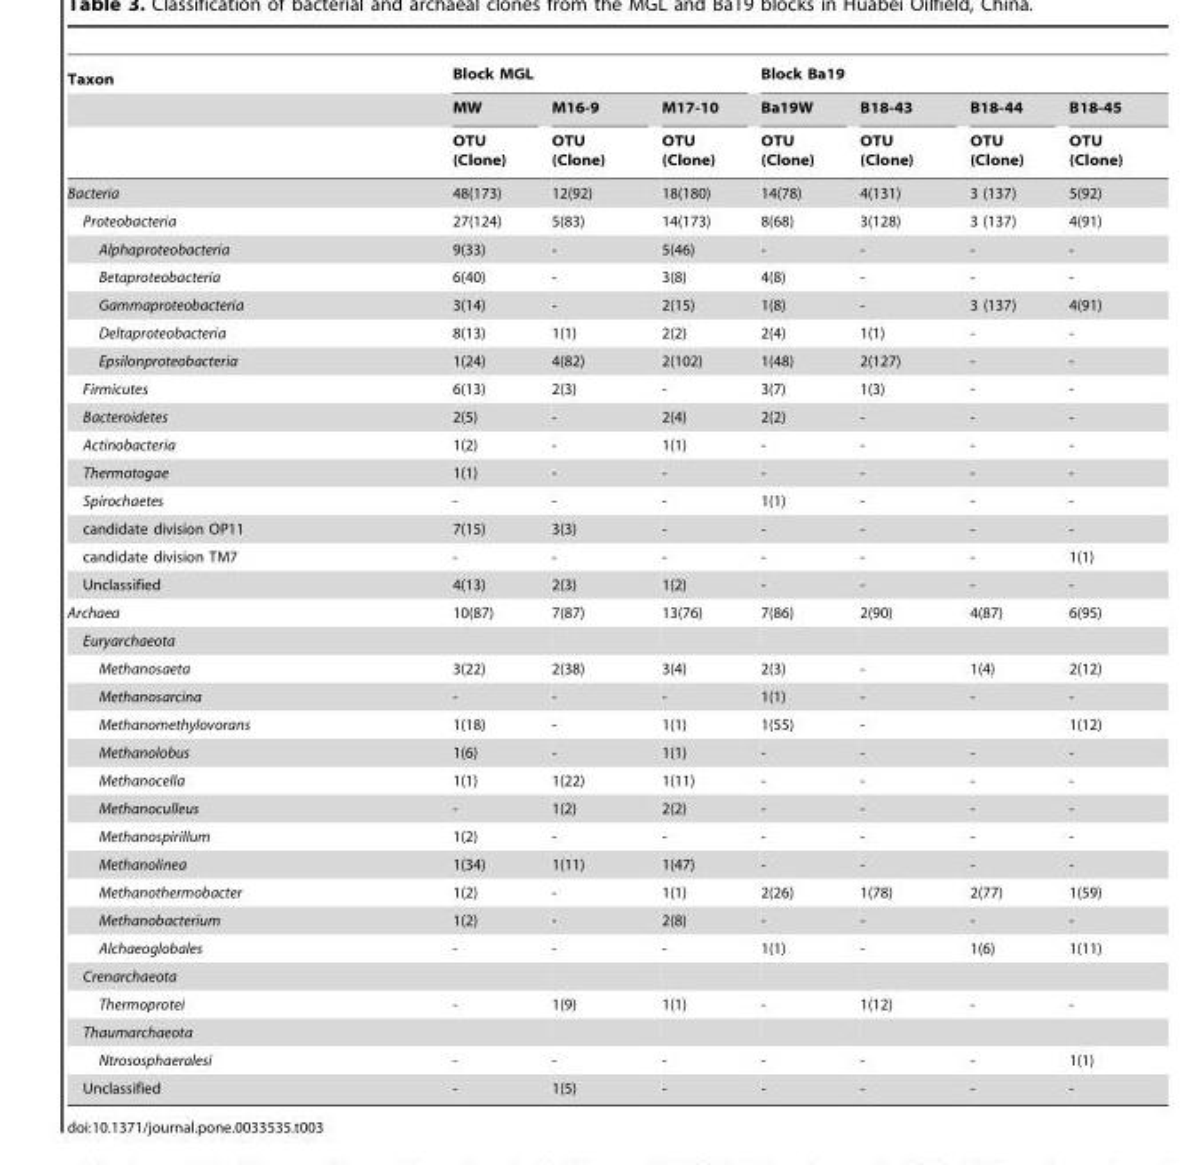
<table><thead><tr><td rowspan="3">Taxon</td><td colspan="3">Block MGL</td><td colspan="4">Block Ba19</td></tr><tr><td rowspan="2">MW OTU (Clone)</td><td rowspan="2">M16-9 OTU (Clone)</td><td rowspan="2">M17-10 OTU (Clone)</td><td rowspan="2">Ba19W OTU (Clone)</td><td rowspan="2">B18-43 OTU (Clone)</td><td rowspan="2">B18-44 OTU (Clone)</td><td rowspan="2">B18-45 OTU (Clone)</td></tr><tr></tr></thead><tbody><tr><td>Bacteria</td><td>48(173)</td><td>12(92)</td><td>18(180)</td><td>14(78)</td><td>4(131)</td><td>3 (137)</td><td>5(92)</td></tr><tr><td>Proteobacteria</td><td>27(124)</td><td>5(83)</td><td>14(173)</td><td>8(68)</td><td>3(128)</td><td>3 (137)</td><td>4(91)</td></tr><tr><td>Alphaproteobacteria</td><td>9(33)</td><td>-</td><td>5(46)</td><td>-</td><td>-</td><td>-</td><td>-</td></tr><tr><td>Betaproteobacteria</td><td>6(40)</td><td>-</td><td>3(8)</td><td>4(8)</td><td>-</td><td>-</td><td>-</td></tr><tr><td>Gammaproteobacteria</td><td>3(14)</td><td>-</td><td>2(15)</td><td>1(8)</td><td>-</td><td>3 (137)</td><td>4(91)</td></tr><tr><td>Deltaproteobacteria</td><td>8(13)</td><td>1(1)</td><td>2(2)</td><td>2(4)</td><td>1(1)</td><td>-</td><td>-</td></tr><tr><td>Epsilonproteobacteria</td><td>1(24)</td><td>4(82)</td><td>2(102)</td><td>1(48)</td><td>2(127)</td><td>-</td><td>-</td></tr><tr><td>Firmicutes</td><td>6(13)</td><td>2(3)</td><td>-</td><td>3(7)</td><td>1(3)</td><td>-</td><td>-</td></tr><tr><td>Bacteroidetes</td><td>2(5)</td><td>-</td><td>2(4)</td><td>2(2)</td><td>-</td><td>-</td><td>-</td></tr><tr><td>Actinobacteria</td><td>1(2)</td><td>-</td><td>1(1)</td><td>-</td><td>-</td><td>-</td><td>-</td></tr><tr><td>Thermotogae</td><td>1(1)</td><td>-</td><td>-</td><td>-</td><td>-</td><td>-</td><td>-</td></tr><tr><td>Spirochaetes</td><td>-</td><td>-</td><td>-</td><td>1(1)</td><td>-</td><td>-</td><td>-</td></tr><tr><td>candidate division OP11</td><td>7(15)</td><td>3(3)</td><td>-</td><td>-</td><td>-</td><td>-</td><td>-</td></tr><tr><td>candidate division TM7</td><td>-</td><td>-</td><td>-</td><td>-</td><td>-</td><td>-</td><td>1(1)</td></tr><tr><td>Unclassified</td><td>4(13)</td><td>2(3)</td><td>1(2)</td><td>-</td><td>-</td><td>-</td><td>-</td></tr><tr><td>Archaea</td><td>10(87)</td><td>7(87)</td><td>13(76)</td><td>7(86)</td><td>2(90)</td><td>4(87)</td><td>6(95)</td></tr><tr><td colspan="8">Euryarchaeota</td></tr><tr><td>Methanosaeta</td><td>3(22)</td><td>2(38)</td><td>3(4)</td><td>2(3)</td><td>-</td><td>1(4)</td><td>2(12)</td></tr><tr><td>Methanosarcina</td><td>-</td><td>-</td><td>-</td><td>1(1)</td><td>-</td><td>-</td><td>-</td></tr><tr><td>Methanomethylovorans</td><td>1(18)</td><td>-</td><td>1(1)</td><td>1(55)</td><td>-</td><td></td><td>1(12)</td></tr><tr><td>Methanolobus</td><td>1(6)</td><td>-</td><td>1(1)</td><td>-</td><td>-</td><td>-</td><td>-</td></tr><tr><td>Methanocella</td><td>1(1)</td><td>1(22)</td><td>1(11)</td><td>-</td><td>-</td><td>-</td><td>-</td></tr><tr><td>Methanoculleus</td><td>-</td><td>1(2)</td><td>2(2)</td><td>-</td><td>-</td><td>-</td><td>-</td></tr><tr><td>Methanospirillum</td><td>1(2)</td><td>-</td><td>-</td><td>-</td><td>-</td><td>-</td><td>-</td></tr><tr><td>Methanolinea</td><td>1(34)</td><td>1(11)</td><td>1(47)</td><td>-</td><td>-</td><td>-</td><td>-</td></tr><tr><td>Methanothermobacter</td><td>1(2)</td><td>-</td><td>1(1)</td><td>2(26)</td><td>1(78)</td><td>2(77)</td><td>1(59)</td></tr><tr><td>Methanobacterium</td><td>1(2)</td><td>-</td><td>2(8)</td><td>-</td><td>-</td><td>-</td><td>-</td></tr><tr><td>Alchaeoglobales</td><td>-</td><td>-</td><td>-</td><td>1(1)</td><td>-</td><td>1(6)</td><td>1(11)</td></tr><tr><td colspan="8">Crenarchaeota</td></tr><tr><td>Thermoprotei</td><td>-</td><td>1(9)</td><td>1(1)</td><td>-</td><td>1(12)</td><td>-</td><td>-</td></tr><tr><td colspan="8">Thaumarchaeota</td></tr><tr><td>Ntrososphaeralesi</td><td>-</td><td>-</td><td>-</td><td>-</td><td>-</td><td>-</td><td>1(1)</td></tr><tr><td>Unclassified</td><td>-</td><td>1(5)</td><td>-</td><td>-</td><td>-</td><td>-</td><td>-</td></tr></tbody></table>